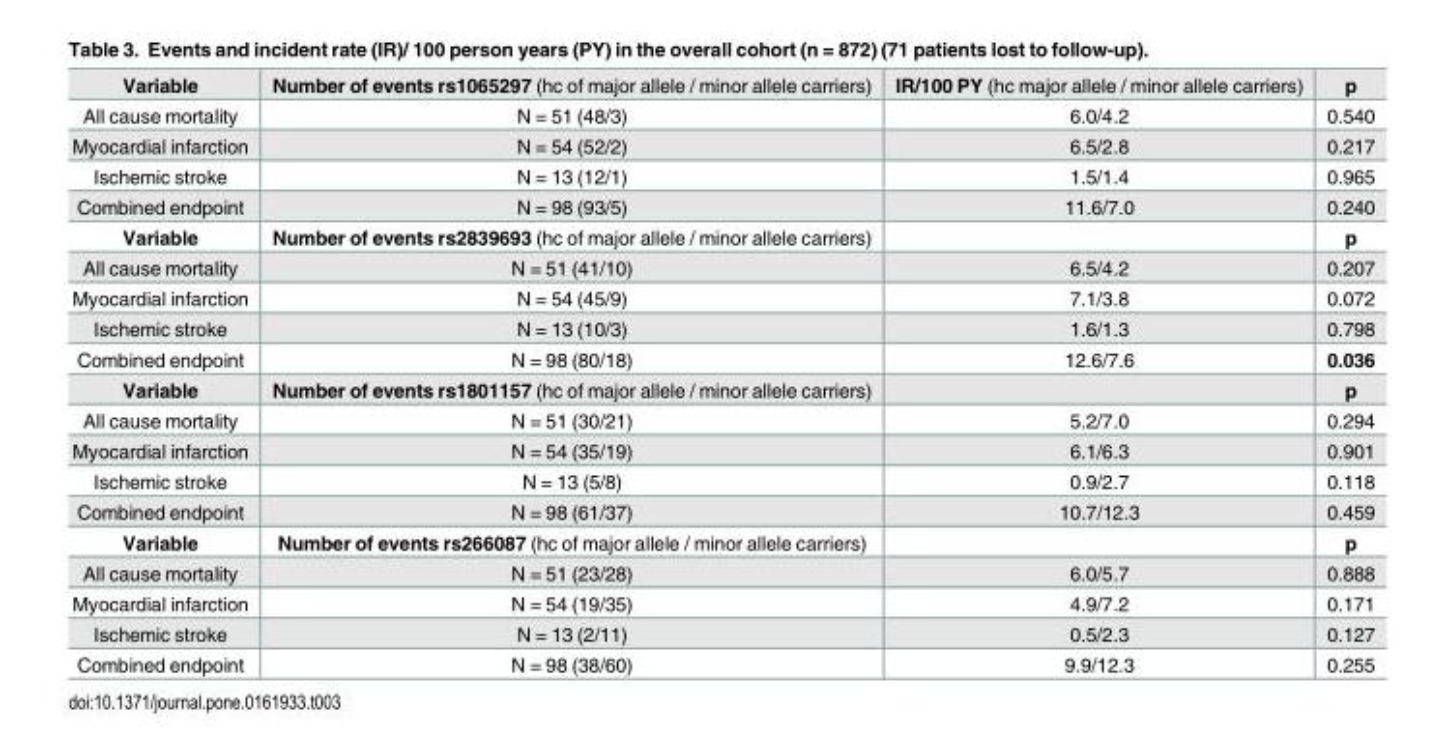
<table><tbody><tr><td>Variable</td><td>Number of events rs1065297 (hc of major allele / minor allele carriers)</td><td>IR/100 PY (hc major allele / minor allele carriers)</td><td>p</td></tr><tr><td>All cause mortality</td><td>N = 51 (48/3)</td><td>6.0/4.2</td><td>0.540</td></tr><tr><td>Myocardial infarction</td><td>N = 54 (52/2)</td><td>6.5/2.8</td><td>0.217</td></tr><tr><td>Ischemic stroke</td><td>N = 13 (12/1)</td><td>1.5/1.4</td><td>0.965</td></tr><tr><td>Combined endpoint</td><td>N = 98 (93/5)</td><td>11.6/7.0</td><td>0.240</td></tr><tr><td>Variable</td><td>Number of events rs2839693 (hc of major allele / minor allele carriers)</td><td></td><td>p</td></tr><tr><td>All cause mortality</td><td>N = 51 (41/10)</td><td>6.5/4.2</td><td>0.207</td></tr><tr><td>Myocardial infarction</td><td>N = 54 (45/9)</td><td>7.1/3.8</td><td>0.072</td></tr><tr><td>Ischemic stroke</td><td>N = 13 (10/3)</td><td>1.6/1.3</td><td>0.798</td></tr><tr><td>Combined endpoint</td><td>N = 98 (80/18)</td><td>12.6/7.6</td><td>0.036</td></tr><tr><td>Variable</td><td>Number of events rs1801157 (hc of major allele / minor allele carriers)</td><td></td><td>p</td></tr><tr><td>All cause mortality</td><td>N = 51 (30/21)</td><td>5.2/7.0</td><td>0.294</td></tr><tr><td>Myocardial infarction</td><td>N = 54 (35/19)</td><td>6.1/6.3</td><td>0.901</td></tr><tr><td>Ischemic stroke</td><td>N = 13 (5/8)</td><td>0.9/2.7</td><td>0.118</td></tr><tr><td>Combined endpoint</td><td>N = 98 (61/37)</td><td>10.7/12.3</td><td>0.459</td></tr><tr><td>Variable</td><td>Number of events rs266087 (hc of major allele / minor allele carriers)</td><td></td><td>p</td></tr><tr><td>All cause mortality</td><td>N = 51 (23/28)</td><td>6.0/5.7</td><td>0.888</td></tr><tr><td>Myocardial infarction</td><td>N = 54 (19/35)</td><td>4.9/7.2</td><td>0.171</td></tr><tr><td>Ischemic stroke</td><td>N = 13 (2/11)</td><td>0.5/2.3</td><td>0.127</td></tr><tr><td>Combined endpoint</td><td>N = 98 (38/60)</td><td>9.9/12.3</td><td>0.255</td></tr></tbody></table>